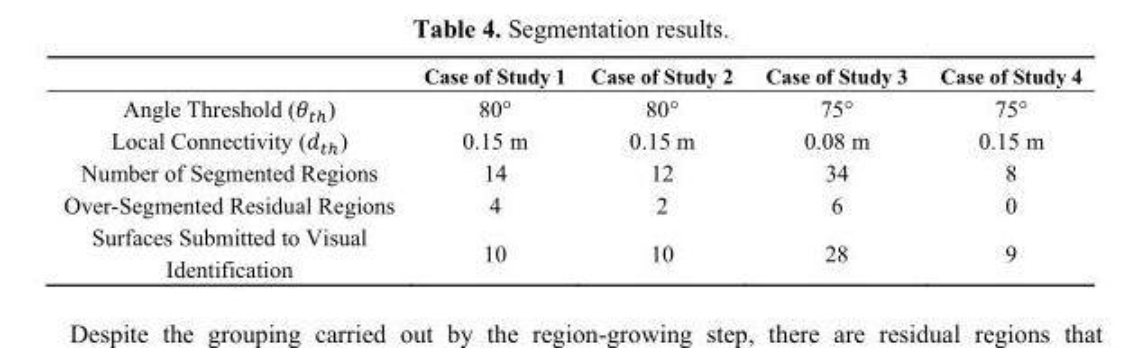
<table><thead><tr><td></td><td>Case of Study 1</td><td>Case of Study 2</td><td>Case of Study 3</td><td>Case of Study 4</td></tr></thead><tbody><tr><td>Angle Threshold (θ<sub>th</sub>)</td><td>80°</td><td>80°</td><td>75°</td><td>75°</td></tr><tr><td>Local Connectivity (d<sub>th</sub>)</td><td>0.15 m</td><td>0.15 m</td><td>0.08 m</td><td>0.15 m</td></tr><tr><td>Number of Segmented Regions</td><td>14</td><td>12</td><td>34</td><td>8</td></tr><tr><td>Over-Segmented Residual Regions</td><td>4</td><td>2</td><td>6</td><td>0</td></tr><tr><td>Surfaces Submitted to Visual Identification</td><td>10</td><td>10</td><td>28</td><td>9</td></tr></tbody></table>